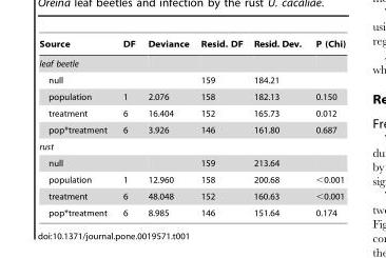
<table><thead><tr><td>Source</td><td>DF</td><td>Deviance</td><td>Resid. DF</td><td>Resid. Dev.</td><td>P (Chi)</td></tr></thead><tbody><tr><td colspan="6">leaf beetle</td></tr><tr><td>null</td><td></td><td></td><td>159</td><td>184.21</td><td></td></tr><tr><td>population</td><td>1</td><td>2.076</td><td>158</td><td>182.13</td><td>0.150</td></tr><tr><td>treatment</td><td>6</td><td>16.404</td><td>152</td><td>165.73</td><td>0.012</td></tr><tr><td>pop*treatment</td><td>6</td><td>3.926</td><td>146</td><td>161.80</td><td>0.687</td></tr><tr><td colspan="6">rust</td></tr><tr><td>null</td><td></td><td></td><td>159</td><td>213.64</td><td></td></tr><tr><td>population</td><td>1</td><td>12.960</td><td>158</td><td>200.68</td><td>&lt;0.001</td></tr><tr><td>treatment</td><td>6</td><td>48.048</td><td>152</td><td>160.63</td><td>&lt;0.001</td></tr><tr><td>pop*treatment</td><td>6</td><td>8.985</td><td>146</td><td>151.64</td><td>0.174</td></tr></tbody></table>